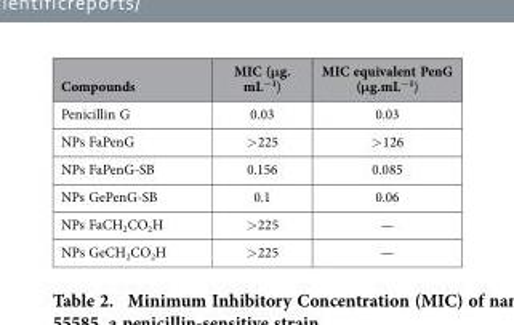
<table><thead><tr><td>Compounds</td><td>MIC (μg. mL<sup>−1</sup>)</td><td>MIC equivalent PenG (μg.mL<sup>−1</sup>)</td></tr></thead><tbody><tr><td>Penicillin G</td><td>0.03</td><td>0.03</td></tr><tr><td>NPs FaPenG</td><td>&gt; 225</td><td>&gt; 126</td></tr><tr><td>NPs FaPenG-SB</td><td>0.156</td><td>0.085</td></tr><tr><td>NPs GePenG-SB</td><td>0.1</td><td>0.06</td></tr><tr><td>NPs FaCH<sub>2</sub>CO<sub>2</sub>H</td><td>&gt; 225</td><td>—</td></tr><tr><td>NPs GeCH<sub>2</sub>CO<sub>2</sub>H</td><td>&gt; 225</td><td>—</td></tr></tbody></table>